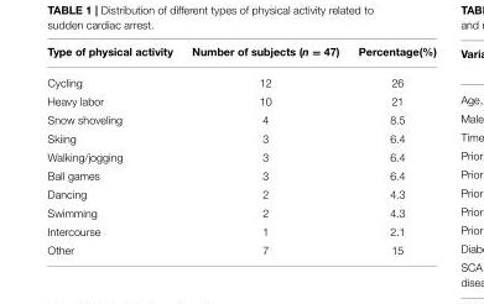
<table><thead><tr><td>Type of physical activity</td><td>Number of subjects (n = 47)</td><td>Percentage(%)</td></tr></thead><tbody><tr><td>Cycling</td><td>12</td><td>26</td></tr><tr><td>Heavy labor</td><td>10</td><td>21</td></tr><tr><td>Snow shoveling</td><td>4</td><td>8.5</td></tr><tr><td>Skiing</td><td>3</td><td>6.4</td></tr><tr><td>Walking/jogging</td><td>3</td><td>6.4</td></tr><tr><td>Ball games</td><td>3</td><td>6.4</td></tr><tr><td>Dancing</td><td>2</td><td>4.3</td></tr><tr><td>Swimming</td><td>2</td><td>4.3</td></tr><tr><td>Intercourse</td><td>1</td><td>2.1</td></tr><tr><td>Other</td><td>7</td><td>15</td></tr></tbody></table>